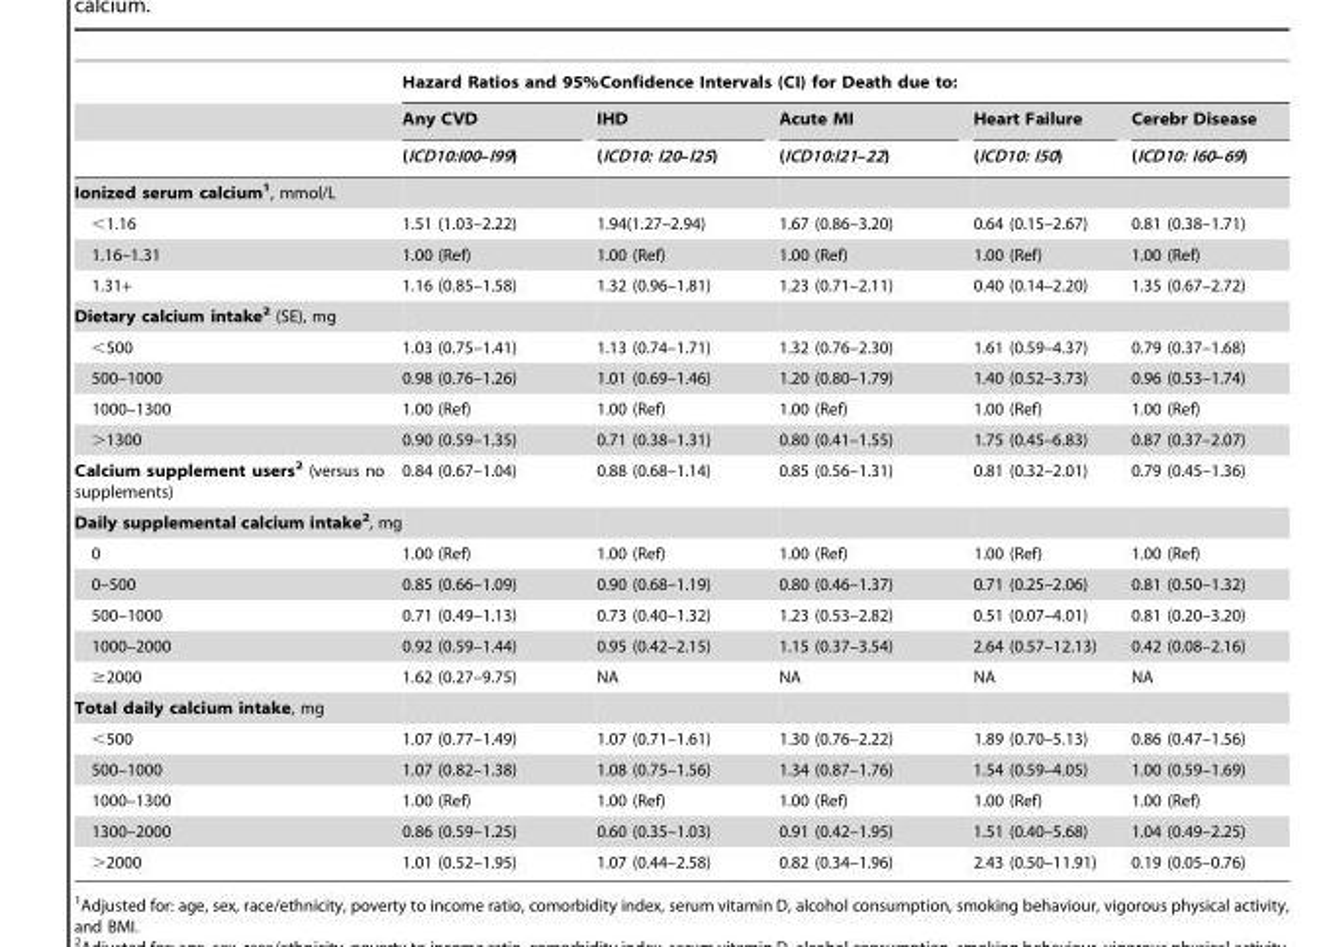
<table><thead><tr><td rowspan="3"></td><td colspan="5">Hazard Ratios and 95%Confidence Intervals (CI) for Death due to:</td></tr><tr><td rowspan="2">Any CVD (ICD10:I00–I99)</td><td rowspan="2">IHD (ICD10: I20–I25)</td><td rowspan="2">Acute MI (ICD10:I21–22)</td><td rowspan="2">Heart Failure (ICD10: I50)</td><td rowspan="2">Cerebr Disease (ICD10: I60–69)</td></tr><tr></tr></thead><tbody><tr><td colspan="6">Ionized serum calcium1, mmol/L</td></tr><tr><td>&lt;1.16</td><td>1.51 (1.03–2.22)</td><td>1.94(1.27–2.94)</td><td>1.67 (0.86–3.20)</td><td>0.64 (0.15–2.67)</td><td>0.81 (0.38–1.71)</td></tr><tr><td>1.16–1.31</td><td>1.00 (Ref)</td><td>1.00 (Ref)</td><td>1.00 (Ref)</td><td>1.00 (Ref)</td><td>1.00 (Ref)</td></tr><tr><td>1.31+</td><td>1.16 (0.85–1.58)</td><td>1.32 (0.96–1.81)</td><td>1.23 (0.71–2.11)</td><td>0.40 (0.14–2.20)</td><td>1.35 (0.67–2.72)</td></tr><tr><td colspan="6">Dietary calcium intake2 (SE), mg</td></tr><tr><td>&lt;500</td><td>1.03 (0.75–1.41)</td><td>1.13 (0.74–1.71)</td><td>1.32 (0.76–2.30)</td><td>1.61 (0.59–4.37)</td><td>0.79 (0.37–1.68)</td></tr><tr><td>500–1000</td><td>0.98 (0.76–1.26)</td><td>1.01 (0.69–1.46)</td><td>1.20 (0.80–1.79)</td><td>1.40 (0.52–3.73)</td><td>0.96 (0.53–1.74)</td></tr><tr><td>1000–1300</td><td>1.00 (Ref)</td><td>1.00 (Ref)</td><td>1.00 (Ref)</td><td>1.00 (Ref)</td><td>1.00 (Ref)</td></tr><tr><td>&gt;1300</td><td>0.90 (0.59–1.35)</td><td>0.71 (0.38–1.31)</td><td>0.80 (0.41–1.55)</td><td>1.75 (0.45–6.83)</td><td>0.87 (0.37–2.07)</td></tr><tr><td>Calcium supplement users2 (versus no supplements)</td><td>0.84 (0.67–1.04)</td><td>0.88 (0.68–1.14)</td><td>0.85 (0.56–1.31)</td><td>0.81 (0.32–2.01)</td><td>0.79 (0.45–1.36)</td></tr><tr><td colspan="6">Daily supplemental calcium intake2, mg</td></tr><tr><td>0</td><td>1.00 (Ref)</td><td>1.00 (Ref)</td><td>1.00 (Ref)</td><td>1.00 (Ref)</td><td>1.00 (Ref)</td></tr><tr><td>0–500</td><td>0.85 (0.66–1.09)</td><td>0.90 (0.68–1.19)</td><td>0.80 (0.46–1.37)</td><td>0.71 (0.25–2.06)</td><td>0.81 (0.50–1.32)</td></tr><tr><td>500–1000</td><td>0.71 (0.49–1.13)</td><td>0.73 (0.40–1.32)</td><td>1.23 (0.53–2.82)</td><td>0.51 (0.07–4.01)</td><td>0.81 (0.20–3.20)</td></tr><tr><td>1000–2000</td><td>0.92 (0.59–1.44)</td><td>0.95 (0.42–2.15)</td><td>1.15 (0.37–3.54)</td><td>2.64 (0.57–12.13)</td><td>0.42 (0.08–2.16)</td></tr><tr><td>≥2000</td><td>1.62 (0.27–9.75)</td><td>NA</td><td>NA</td><td>NA</td><td>NA</td></tr><tr><td colspan="6">Total daily calcium intake, mg</td></tr><tr><td>&lt;500</td><td>1.07 (0.77–1.49)</td><td>1.07 (0.71–1.61)</td><td>1.30 (0.76–2.22)</td><td>1.89 (0.70–5.13)</td><td>0.86 (0.47–1.56)</td></tr><tr><td>500–1000</td><td>1.07 (0.82–1.38)</td><td>1.08 (0.75–1.56)</td><td>1.34 (0.87–1.76)</td><td>1.54 (0.59–4.05)</td><td>1.00 (0.59–1.69)</td></tr><tr><td>1000–1300</td><td>1.00 (Ref)</td><td>1.00 (Ref)</td><td>1.00 (Ref)</td><td>1.00 (Ref)</td><td>1.00 (Ref)</td></tr><tr><td>1300–2000</td><td>0.86 (0.59–1.25)</td><td>0.60 (0.35–1.03)</td><td>0.91 (0.42–1.95)</td><td>1.51 (0.40–5.68)</td><td>1.04 (0.49–2.25)</td></tr><tr><td>&gt;2000</td><td>1.01 (0.52–1.95)</td><td>1.07 (0.44–2.58)</td><td>0.82 (0.34–1.96)</td><td>2.43 (0.50–11.91)</td><td>0.19 (0.05–0.76)</td></tr></tbody></table>